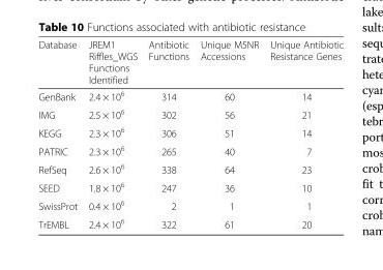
<table><thead><tr><td>Database</td><td>JREM1 Riffles_WGS Functions Identified</td><td>Antibiotic Functions</td><td>Unique M5NR Accessions</td><td>Unique Antibiotic Resistance Genes</td></tr></thead><tbody><tr><td>GenBank</td><td>2.4 × 10<sup>6</sup></td><td>314</td><td>60</td><td>14</td></tr><tr><td>IMG</td><td>2.5 × 10<sup>6</sup></td><td>302</td><td>56</td><td>21</td></tr><tr><td>KEGG</td><td>2.3 × 10<sup>6</sup></td><td>306</td><td>51</td><td>14</td></tr><tr><td>PATRIC</td><td>2.3 × 10<sup>6</sup></td><td>265</td><td>40</td><td>7</td></tr><tr><td>RefSeq</td><td>2.6 × 10<sup>6</sup></td><td>338</td><td>64</td><td>23</td></tr><tr><td>SEED</td><td>1.8 × 10<sup>6</sup></td><td>247</td><td>36</td><td>10</td></tr><tr><td>SwissProt</td><td>0.4 × 10<sup>6</sup></td><td>2</td><td>1</td><td>1</td></tr><tr><td>TrEMBL</td><td>2.4 × 10<sup>6</sup></td><td>322</td><td>61</td><td>20</td></tr></tbody></table>